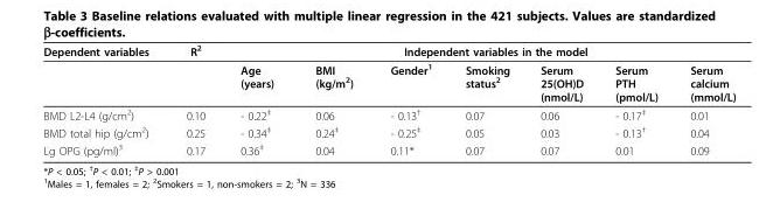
<table><thead><tr><td rowspan="2">Dependent variables</td><td rowspan="2">R<sup>2</sup></td><td colspan="7">Independent variables in the model</td></tr><tr><td>Age (years)</td><td>BMI (kg/m<sup>2</sup>)</td><td>Gender<sup>1</sup></td><td>Smoking status<sup>2</sup></td><td>Serum 25(OH)D (nmol/L)</td><td>Serum PTH (pmol/L)</td><td>Serum calcium (mmol/L)</td></tr></thead><tbody><tr><td>BMD L2-L4 (g/cm<sup>2</sup>)</td><td>0.10</td><td>- 0.22<sup>‡</sup></td><td>0.06</td><td>- 0.13<sup>†</sup></td><td>0.07</td><td>0.06</td><td>- 0.17<sup>‡</sup></td><td>0.01</td></tr><tr><td>BMD total hip (g/cm<sup>2</sup>)</td><td>0.25</td><td>- 0.34<sup>‡</sup></td><td>0.24<sup>‡</sup></td><td>- 0.25<sup>‡</sup></td><td>0.05</td><td>0.03</td><td>- 0.13<sup>†</sup></td><td>0.04</td></tr><tr><td>Lg OPG (pg/ml)<sup>3</sup></td><td>0.17</td><td>0.36<sup>‡</sup></td><td>0.04</td><td>0.11*</td><td>0.07</td><td>0.07</td><td>0.01</td><td>0.09</td></tr></tbody></table>